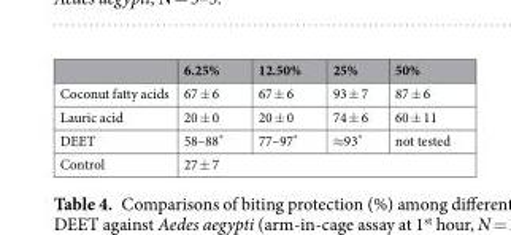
<table><thead><tr><td></td><td>6.25%</td><td>12.50%</td><td>25%</td><td>50%</td></tr></thead><tbody><tr><td>Coconut fatty acids</td><td>67 ± 6</td><td>67 ± 6</td><td>93 ± 7</td><td>87 ± 6</td></tr><tr><td>Lauric acid</td><td>20 ± 0</td><td>20 ± 0</td><td>74 ± 6</td><td>60 ± 11</td></tr><tr><td>DEET</td><td>58–88*</td><td>77–97*</td><td>≈93*</td><td>not tested</td></tr><tr><td>Control</td><td colspan="4">27 ± 7</td></tr></tbody></table>